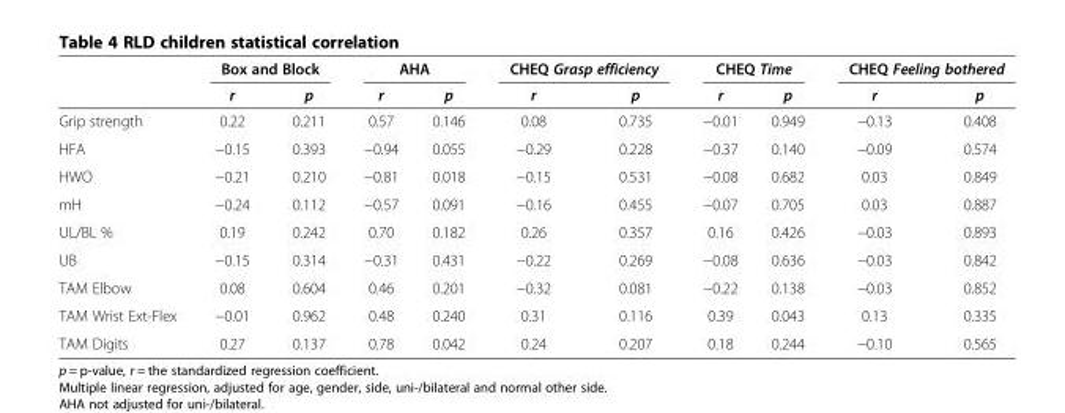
<table><thead><tr><td rowspan="2"></td><td colspan="2">Box and Block</td><td colspan="2">AHA</td><td colspan="2">CHEQ Grasp efficiency</td><td colspan="2">CHEQ Time</td><td colspan="2">CHEQ Feeling bothered</td></tr><tr><td>r</td><td>p</td><td>r</td><td>p</td><td>r</td><td>p</td><td>r</td><td>p</td><td>r</td><td>p</td></tr></thead><tbody><tr><td>Grip strength</td><td>0.22</td><td>0.211</td><td>0.57</td><td>0.146</td><td>0.08</td><td>0.735</td><td>−0.01</td><td>0.949</td><td>−0.13</td><td>0.408</td></tr><tr><td>HFA</td><td>−0.15</td><td>0.393</td><td>−0.94</td><td>0.055</td><td>−0.29</td><td>0.228</td><td>−0.37</td><td>0.140</td><td>−0.09</td><td>0.574</td></tr><tr><td>HWO</td><td>−0.21</td><td>0.210</td><td>−0.81</td><td>0.018</td><td>−0.15</td><td>0.531</td><td>−0.08</td><td>0.682</td><td>0.03</td><td>0.849</td></tr><tr><td>mH</td><td>−0.24</td><td>0.112</td><td>−0.57</td><td>0.091</td><td>−0.16</td><td>0.455</td><td>−0.07</td><td>0.705</td><td>0.03</td><td>0.887</td></tr><tr><td>UL/BL %</td><td>0.19</td><td>0.242</td><td>0.70</td><td>0.182</td><td>0.26</td><td>0.357</td><td>0.16</td><td>0.426</td><td>−0.03</td><td>0.893</td></tr><tr><td>UB</td><td>−0.15</td><td>0.314</td><td>−0.31</td><td>0.431</td><td>−0.22</td><td>0.269</td><td>−0.08</td><td>0.636</td><td>−0.03</td><td>0.842</td></tr><tr><td>TAM Elbow</td><td>0.08</td><td>0.604</td><td>0.46</td><td>0.201</td><td>−0.32</td><td>0.081</td><td>−0.22</td><td>0.138</td><td>−0.03</td><td>0.852</td></tr><tr><td>TAM Wrist Ext-Flex</td><td>−0.01</td><td>0.962</td><td>0.48</td><td>0.240</td><td>0.31</td><td>0.116</td><td>0.39</td><td>0.043</td><td>0.13</td><td>0.335</td></tr><tr><td>TAM Digits</td><td>0.27</td><td>0.137</td><td>0.78</td><td>0.042</td><td>0.24</td><td>0.207</td><td>0.18</td><td>0.244</td><td>−0.10</td><td>0.565</td></tr></tbody></table>